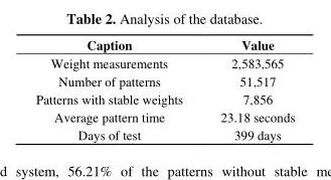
<table><thead><tr><td>Caption</td><td>Value</td></tr></thead><tbody><tr><td>Weight measurements</td><td>2,583,565</td></tr><tr><td>Number of patterns</td><td>51,517</td></tr><tr><td>Patterns with stable weights</td><td>7,856</td></tr><tr><td>Average pattern time</td><td>23.18 seconds</td></tr><tr><td>Days of test</td><td>399 days</td></tr></tbody></table>